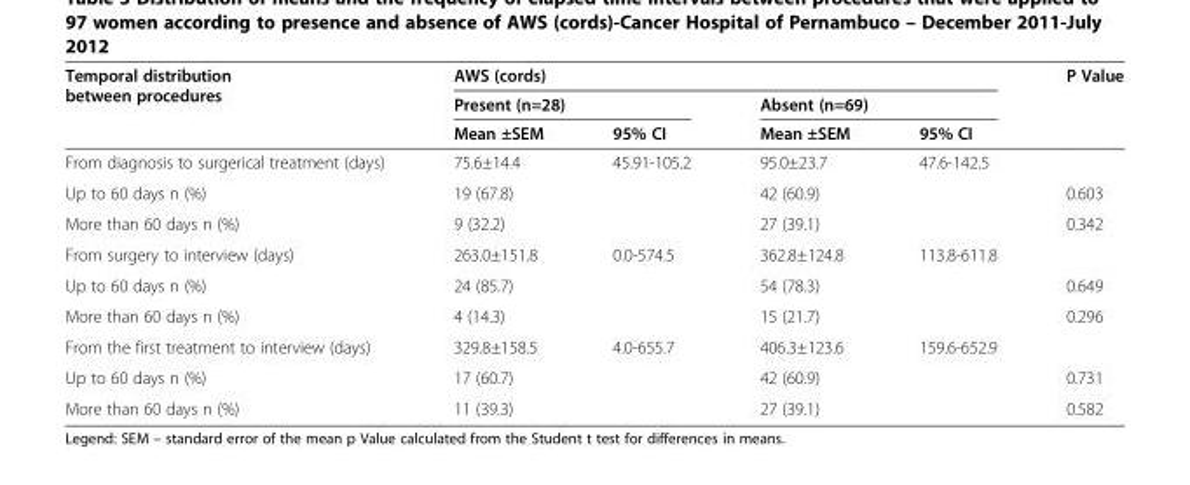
<table><thead><tr><td rowspan="3">Temporal distribution between procedures</td><td colspan="4">AWS (cords)</td><td rowspan="3">P Value</td></tr><tr><td colspan="2">Present (n=28)</td><td colspan="2">Absent (n=69)</td></tr><tr><td>Mean ±SEM</td><td>95% CI</td><td>Mean ±SEM</td><td>95% CI</td></tr></thead><tbody><tr><td>From diagnosis to surgerical treatment (days)</td><td>75.6±14.4</td><td>45.91-105.2</td><td>95.0±23.7</td><td>47.6-142.5</td><td></td></tr><tr><td>Up to 60 days n (%)</td><td>19 (67.8)</td><td></td><td>42 (60.9)</td><td></td><td>0.603</td></tr><tr><td>More than 60 days n (%)</td><td>9 (32.2)</td><td></td><td>27 (39.1)</td><td></td><td>0.342</td></tr><tr><td>From surgery to interview (days)</td><td>263.0±151.8</td><td>0.0-574.5</td><td>362.8±124.8</td><td>113.8-611.8</td><td></td></tr><tr><td>Up to 60 days n (%)</td><td>24 (85.7)</td><td></td><td>54 (78.3)</td><td></td><td>0.649</td></tr><tr><td>More than 60 days n (%)</td><td>4 (14.3)</td><td></td><td>15 (21.7)</td><td></td><td>0.296</td></tr><tr><td>From the first treatment to interview (days)</td><td>329.8±158.5</td><td>4.0-655.7</td><td>406.3±123.6</td><td>159.6-652.9</td><td></td></tr><tr><td>Up to 60 days n (%)</td><td>17 (60.7)</td><td></td><td>42 (60.9)</td><td></td><td>0.731</td></tr><tr><td>More than 60 days n (%)</td><td>11 (39.3)</td><td></td><td>27 (39.1)</td><td></td><td>0.582</td></tr></tbody></table>